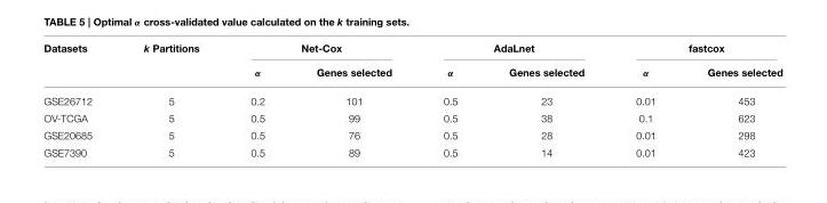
<table><thead><tr><td rowspan="2">Datasets</td><td rowspan="2">k Partitions</td><td colspan="2">Net-Cox</td><td colspan="2">AdaLnet</td><td colspan="2">fastcox</td></tr><tr><td>α</td><td>Genes selected</td><td>α</td><td>Genes selected</td><td>α</td><td>Genes selected</td></tr></thead><tbody><tr><td>GSE26712</td><td>5</td><td>0.2</td><td>101</td><td>0.5</td><td>23</td><td>0.01</td><td>453</td></tr><tr><td>OV-TCGA</td><td>5</td><td>0.5</td><td>99</td><td>0.5</td><td>38</td><td>0.1</td><td>623</td></tr><tr><td>GSE20685</td><td>5</td><td>0.5</td><td>76</td><td>0.5</td><td>28</td><td>0.01</td><td>298</td></tr><tr><td>GSE7390</td><td>5</td><td>0.5</td><td>89</td><td>0.5</td><td>14</td><td>0.01</td><td>423</td></tr></tbody></table>